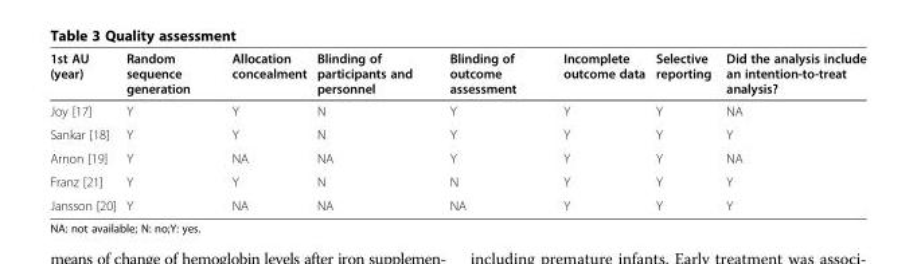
<table><thead><tr><td>1st AU (year)</td><td>Random sequence generation</td><td>Allocation concealment</td><td>Blinding of participants and personnel</td><td>Blinding of outcome assessment</td><td>Incomplete outcome data</td><td>Selective reporting</td><td>Did the analysis include an intention-to-treat analysis?</td></tr></thead><tbody><tr><td>Joy [17]</td><td>Y</td><td>Y</td><td>N</td><td>Y</td><td>Y</td><td>Y</td><td>NA</td></tr><tr><td>Sankar [18]</td><td>Y</td><td>Y</td><td>N</td><td>Y</td><td>Y</td><td>Y</td><td>Y</td></tr><tr><td>Arnon [19]</td><td>Y</td><td>NA</td><td>NA</td><td>Y</td><td>Y</td><td>Y</td><td>NA</td></tr><tr><td>Franz [21]</td><td>Y</td><td>Y</td><td>N</td><td>N</td><td>Y</td><td>Y</td><td>Y</td></tr><tr><td>Jansson [20]</td><td>Y</td><td>NA</td><td>NA</td><td>NA</td><td>Y</td><td>Y</td><td>Y</td></tr></tbody></table>